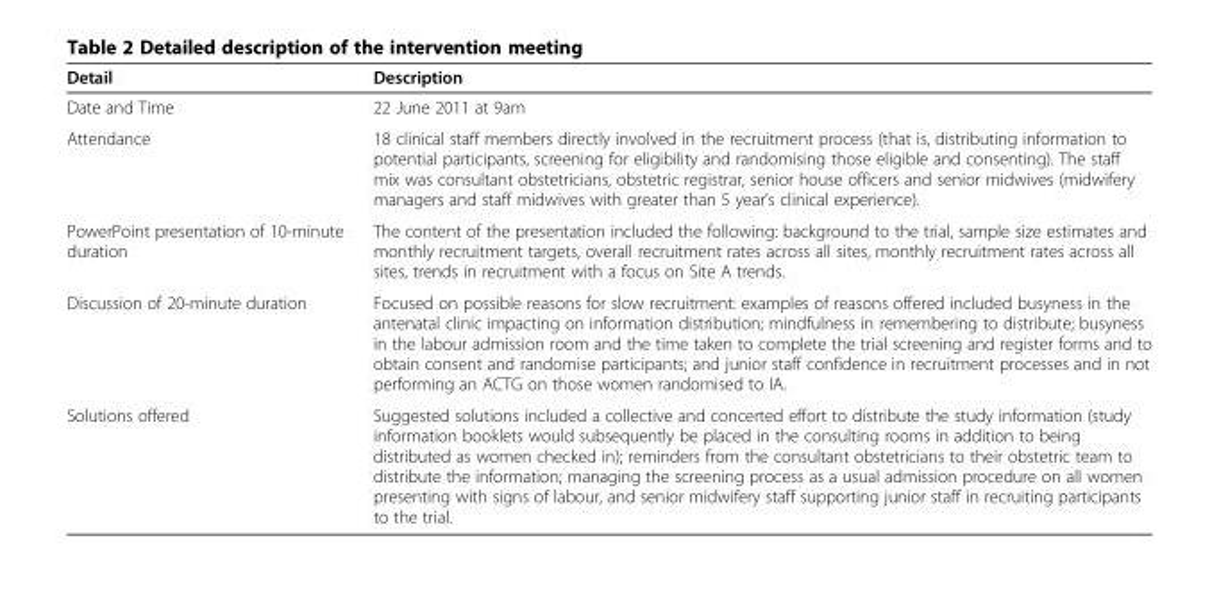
<table><thead><tr><td>Detail</td><td>Description</td></tr></thead><tbody><tr><td>Date and Time</td><td>22 June 2011 at 9am</td></tr><tr><td>Attendance</td><td>18 clinical staff members directly involved in the recruitment process (that is, distributing information to potential participants, screening for eligibility and randomising those eligible and consenting). The staff mix was consultant obstetricians, obstetric registrar, senior house officers and senior midwives (midwifery managers and staff midwives with greater than 5 year’s clinical experience).</td></tr><tr><td>PowerPoint presentation of 10-minute duration</td><td>The content of the presentation included the following: background to the trial, sample size estimates and monthly recruitment targets, overall recruitment rates across all sites, monthly recruitment rates across all sites, trends in recruitment with a focus on Site A trends.</td></tr><tr><td>Discussion of 20-minute duration</td><td>Focused on possible reasons for slow recruitment: examples of reasons offered included busyness in the antenatal clinic impacting on information distribution; mindfulness in remembering to distribute; busyness in the labour admission room and the time taken to complete the trial screening and register forms and to obtain consent and randomise participants; and junior staff confidence in recruitment processes and in not performing an ACTG on those women randomised to IA.</td></tr><tr><td>Solutions offered</td><td>Suggested solutions included a collective and concerted effort to distribute the study information (study information booklets would subsequently be placed in the consulting rooms in addition to being distributed as women checked in); reminders from the consultant obstetricians to their obstetric team to distribute the information; managing the screening process as a usual admission procedure on all women presenting with signs of labour, and senior midwifery staff supporting junior staff in recruiting participants to the trial.</td></tr></tbody></table>